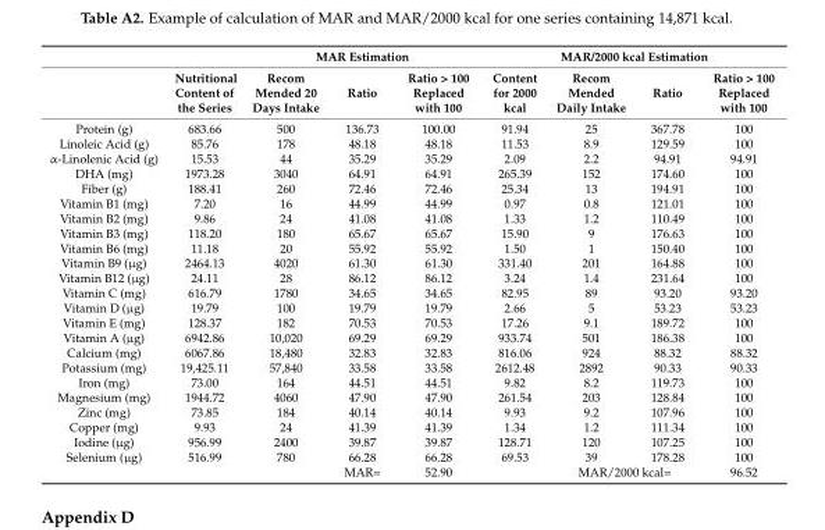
<table><thead><tr><td rowspan="2"></td><td rowspan="2">Nutritional Content of the Series</td><td colspan="3">MAR Estimation</td><td colspan="4">MAR/2000 kcal Estimation</td></tr><tr><td>Recom Mended 20 Days Intake</td><td>Ratio</td><td>Ratio &gt; 100 Replaced with 100</td><td>Content for 2000 kcal</td><td>Recom Mended Daily Intake</td><td>Ratio</td><td>Ratio &gt; 100 Replaced with 100</td></tr></thead><tbody><tr><td>Protein (g)</td><td>683.66</td><td>500</td><td>136.73</td><td>100.00</td><td>91.94</td><td>25</td><td>367.78</td><td>100</td></tr><tr><td>Linoleic Acid (g)</td><td>85.76</td><td>178</td><td>48.18</td><td>48.18</td><td>11.53</td><td>8.9</td><td>129.59</td><td>100</td></tr><tr><td>α-Linolenic Acid (g)</td><td>15.53</td><td>44</td><td>35.29</td><td>35.29</td><td>2.09</td><td>2.2</td><td>94.91</td><td>94.91</td></tr><tr><td>DHA (mg)</td><td>1973.28</td><td>3040</td><td>64.91</td><td>64.91</td><td>265.39</td><td>152</td><td>174.60</td><td>100</td></tr><tr><td>Fiber (g)</td><td>188.41</td><td>260</td><td>72.46</td><td>72.46</td><td>25.34</td><td>13</td><td>194.91</td><td>100</td></tr><tr><td>Vitamin B1 (mg)</td><td>7.20</td><td>16</td><td>44.99</td><td>44.99</td><td>0.97</td><td>0.8</td><td>121.01</td><td>100</td></tr><tr><td>Vitamin B2 (mg)</td><td>9.86</td><td>24</td><td>41.08</td><td>41.08</td><td>1.33</td><td>1.2</td><td>110.49</td><td>100</td></tr><tr><td>Vitamin B3 (mg)</td><td>118.20</td><td>180</td><td>65.67</td><td>65.67</td><td>15.90</td><td>9</td><td>176.63</td><td>100</td></tr><tr><td>Vitamin B6 (mg)</td><td>11.18</td><td>20</td><td>55.92</td><td>55.92</td><td>1.50</td><td>1</td><td>150.40</td><td>100</td></tr><tr><td>Vitamin B9 (µg)</td><td>2464.13</td><td>4020</td><td>61.30</td><td>61.30</td><td>331.40</td><td>201</td><td>164.88</td><td>100</td></tr><tr><td>Vitamin B12 (µg)</td><td>24.11</td><td>28</td><td>86.12</td><td>86.12</td><td>3.24</td><td>1.4</td><td>231.64</td><td>100</td></tr><tr><td>Vitamin C (mg)</td><td>616.79</td><td>1780</td><td>34.65</td><td>34.65</td><td>82.95</td><td>89</td><td>93.20</td><td>93.20</td></tr><tr><td>Vitamin D (µg)</td><td>19.79</td><td>100</td><td>19.79</td><td>19.79</td><td>2.66</td><td>5</td><td>53.23</td><td>53.23</td></tr><tr><td>Vitamin E (mg)</td><td>128.37</td><td>182</td><td>70.53</td><td>70.53</td><td>17.26</td><td>9.1</td><td>189.72</td><td>100</td></tr><tr><td>Vitamin A (µg)</td><td>6942.86</td><td>10,020</td><td>69.29</td><td>69.29</td><td>933.74</td><td>501</td><td>186.38</td><td>100</td></tr><tr><td>Calcium (mg)</td><td>6067.86</td><td>18,480</td><td>32.83</td><td>32.83</td><td>816.06</td><td>924</td><td>88.32</td><td>88.32</td></tr><tr><td>Potassium (mg)</td><td>19,425.11</td><td>57,840</td><td>33.58</td><td>33.58</td><td>2612.48</td><td>2892</td><td>90.33</td><td>90.33</td></tr><tr><td>Iron (mg)</td><td>73.00</td><td>164</td><td>44.51</td><td>44.51</td><td>9.82</td><td>8.2</td><td>119.73</td><td>100</td></tr><tr><td>Magnesium (mg)</td><td>1944.72</td><td>4060</td><td>47.90</td><td>47.90</td><td>261.54</td><td>203</td><td>128.84</td><td>100</td></tr><tr><td>Zinc (mg)</td><td>73.85</td><td>184</td><td>40.14</td><td>40.14</td><td>9.93</td><td>9.2</td><td>107.96</td><td>100</td></tr><tr><td>Copper (mg)</td><td>9.93</td><td>24</td><td>41.39</td><td>41.39</td><td>1.34</td><td>1.2</td><td>111.34</td><td>100</td></tr><tr><td>Iodine (µg)</td><td>956.99</td><td>2400</td><td>39.87</td><td>39.87</td><td>128.71</td><td>120</td><td>107.25</td><td>100</td></tr><tr><td rowspan="2">Selenium (µg)</td><td>516.99</td><td>780</td><td>66.28</td><td>66.28</td><td>69.53</td><td>39</td><td>178.28</td><td>100</td></tr><tr><td></td><td></td><td>MAR=</td><td>52.90</td><td></td><td colspan="2">MAR/2000 kcal=</td><td>96.52</td></tr></tbody></table>